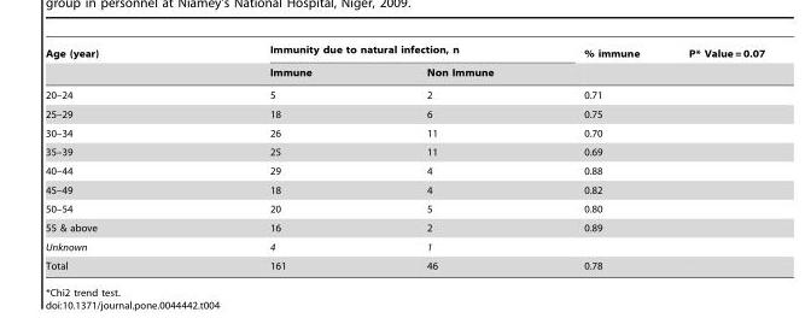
<table><thead><tr><td rowspan="2">Age (year)</td><td colspan="2">Immunity due to natural infection, n</td><td rowspan="2">% immune</td><td rowspan="2">P* Value = 0.07</td></tr><tr><td>Immune</td><td>Non Immune</td></tr></thead><tbody><tr><td>20–24</td><td>5</td><td>2</td><td>0.71</td><td></td></tr><tr><td>25–29</td><td>18</td><td>6</td><td>0.75</td><td></td></tr><tr><td>30–34</td><td>26</td><td>11</td><td>0.70</td><td></td></tr><tr><td>35–39</td><td>25</td><td>11</td><td>0.69</td><td></td></tr><tr><td>40–44</td><td>29</td><td>4</td><td>0.88</td><td></td></tr><tr><td>45–49</td><td>18</td><td>4</td><td>0.82</td><td></td></tr><tr><td>50–54</td><td>20</td><td>5</td><td>0.80</td><td></td></tr><tr><td>55 &amp; above</td><td>16</td><td>2</td><td>0.89</td><td></td></tr><tr><td>Unknown</td><td>4</td><td>1</td><td></td><td></td></tr><tr><td>Total</td><td>161</td><td>46</td><td>0.78</td><td></td></tr></tbody></table>